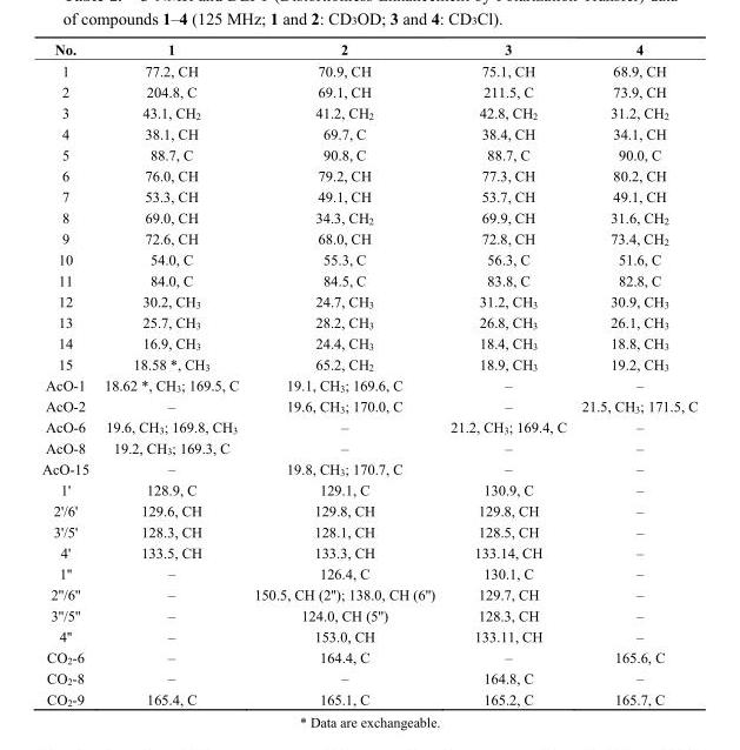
<table><thead><tr><td>No.</td><td>1</td><td>2</td><td>3</td><td>4</td></tr></thead><tbody><tr><td>1</td><td>77.2, CH</td><td>70.9, CH</td><td>75.1, CH</td><td>68.9, CH</td></tr><tr><td>2</td><td>204.8, C</td><td>69.1, CH</td><td>211.5, C</td><td>73.9, CH</td></tr><tr><td>3</td><td>43.1, CH<sub>2</sub></td><td>41.2, CH<sub>2</sub></td><td>42.8, CH<sub>2</sub></td><td>31.2, CH<sub>2</sub></td></tr><tr><td>4</td><td>38.1, CH</td><td>69.7, C</td><td>38.4, CH</td><td>34.1, CH</td></tr><tr><td>5</td><td>88.7, C</td><td>90.8, C</td><td>88.7, C</td><td>90.0, C</td></tr><tr><td>6</td><td>76.0, CH</td><td>79.2, CH</td><td>77.3, CH</td><td>80.2, CH</td></tr><tr><td>7</td><td>53.3, CH</td><td>49.1, CH</td><td>53.7, CH</td><td>49.1, CH</td></tr><tr><td>8</td><td>69.0, CH</td><td>34.3, CH<sub>2</sub></td><td>69.9, CH</td><td>31.6, CH<sub>2</sub></td></tr><tr><td>9</td><td>72.6, CH</td><td>68.0, CH</td><td>72.8, CH</td><td>73.4, CH<sub>2</sub></td></tr><tr><td>10</td><td>54.0, C</td><td>55.3, C</td><td>56.3, C</td><td>51.6, C</td></tr><tr><td>11</td><td>84.0, C</td><td>84.5, C</td><td>83.8, C</td><td>82.8, C</td></tr><tr><td>12</td><td>30.2, CH<sub>3</sub></td><td>24.7, CH<sub>3</sub></td><td>31.2, CH<sub>3</sub></td><td>30.9, CH<sub>3</sub></td></tr><tr><td>13</td><td>25.7, CH<sub>3</sub></td><td>28.2, CH<sub>3</sub></td><td>26.8, CH<sub>3</sub></td><td>26.1, CH<sub>3</sub></td></tr><tr><td>14</td><td>16.9, CH<sub>3</sub></td><td>24.4, CH<sub>3</sub></td><td>18.4, CH<sub>3</sub></td><td>18.8, CH<sub>3</sub></td></tr><tr><td>15</td><td>18.58 *, CH<sub>3</sub></td><td>65.2, CH<sub>2</sub></td><td>18.9, CH<sub>3</sub></td><td>19.2, CH<sub>3</sub></td></tr><tr><td>AcO-1</td><td>18.62 *, CH<sub>3</sub>; 169.5, C</td><td>19.1, CH<sub>3</sub>; 169.6, C</td><td>–</td><td>–</td></tr><tr><td>AcO-2</td><td>–</td><td>19.6, CH<sub>3</sub>; 170.0, C</td><td>–</td><td>21.5, CH<sub>3</sub>; 171.5, C</td></tr><tr><td>AcO-6</td><td>19.6, CH<sub>3</sub>; 169.8, CH<sub>3</sub></td><td>–</td><td>21.2, CH<sub>3</sub>; 169.4, C</td><td>–</td></tr><tr><td>AcO-8</td><td>19.2, CH<sub>3</sub>; 169.3, C</td><td>–</td><td>–</td><td>–</td></tr><tr><td>AcO-15</td><td>–</td><td>19.8, CH<sub>3</sub>; 170.7, C</td><td>–</td><td>–</td></tr><tr><td>1&#x27;</td><td>128.9, C</td><td>129.1, C</td><td>130.9, C</td><td>–</td></tr><tr><td>2&#x27;/6&#x27;</td><td>129.6, CH</td><td>129.8, CH</td><td>129.8, CH</td><td>–</td></tr><tr><td>3&#x27;/5&#x27;</td><td>128.3, CH</td><td>128.1, CH</td><td>128.5, CH</td><td>–</td></tr><tr><td>4&#x27;</td><td>133.5, CH</td><td>133.3, CH</td><td>133.14, CH</td><td>–</td></tr><tr><td>1&#x27;&#x27;</td><td>–</td><td>126.4, C</td><td>130.1, C</td><td>–</td></tr><tr><td>2&#x27;&#x27;/6&#x27;&#x27;</td><td>–</td><td>150.5, CH (2&#x27;&#x27;); 138.0, CH (6&#x27;&#x27;)</td><td>129.7, CH</td><td>–</td></tr><tr><td>3&#x27;&#x27;/5&#x27;&#x27;</td><td>–</td><td>124.0, CH (5&#x27;&#x27;)</td><td>128.3, CH</td><td>–</td></tr><tr><td>4&#x27;&#x27;</td><td>–</td><td>153.0, CH</td><td>133.11, CH</td><td>–</td></tr><tr><td>CO<sub>2</sub>-6</td><td>–</td><td>164.4, C</td><td>–</td><td>165.6, C</td></tr><tr><td>CO<sub>2</sub>-8</td><td>–</td><td>–</td><td>164.8, C</td><td>–</td></tr><tr><td>CO<sub>2</sub>-9</td><td>165.4, C</td><td>165.1, C</td><td>165.2, C</td><td>165.7, C</td></tr></tbody></table>